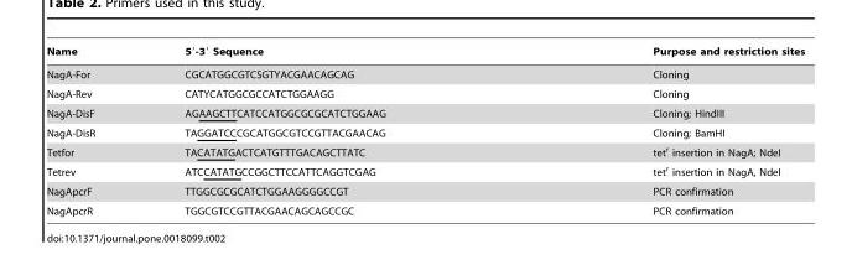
<table><thead><tr><td>Name</td><td>5′-3′ Sequence</td><td>Purpose and restriction sites</td></tr></thead><tbody><tr><td>NagA-For</td><td>CGCATGGCGTCSGTYACGAACAGCAG</td><td>Cloning</td></tr><tr><td>NagA-Rev</td><td>CATYCATGGCGCCATCTGGAAGG</td><td>Cloning</td></tr><tr><td>NagA-DisF</td><td>AGAAGCTTCATCCATGGCGCGCATCTGGAAG</td><td>Cloning; HindIII</td></tr><tr><td>NagA-DisR</td><td>TAGGATCCCGCATGGCGTCCGTTACGAACAG</td><td>Cloning; BamHI</td></tr><tr><td>Tetfor</td><td>TACATATGACTCATGTTTGACAGCTTATC</td><td>tet<sup>r</sup> insertion in NagA; NdeI</td></tr><tr><td>Tetrev</td><td>ATCCATATGCCGGCTTCCATTCAGGTCGAG</td><td>tet<sup>r</sup> insertion in NagA, NdeI</td></tr><tr><td>NagApcrF</td><td>TTGGCGCGCATCTGGAAGGGGCCGT</td><td>PCR confirmation</td></tr><tr><td>NagApcrR</td><td>TGGCGTCCGTTACGAACAGCAGCCGC</td><td>PCR confirmation</td></tr></tbody></table>